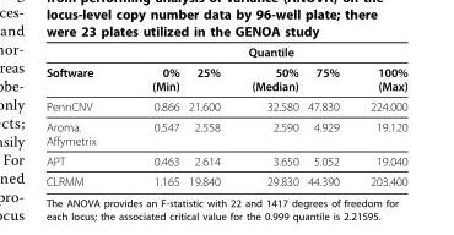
<table><thead><tr><td rowspan="2">Software</td><td colspan="5">Quantile</td></tr><tr><td>0% (Min)</td><td>25%</td><td>50% (Median)</td><td>75%</td><td>100% (Max)</td></tr></thead><tbody><tr><td>PennCNV</td><td>0.866</td><td>21.600</td><td>32.580</td><td>47.830</td><td>224.000</td></tr><tr><td>Aroma. Affymetrix</td><td>0.547</td><td>2.558</td><td>2.590</td><td>4.929</td><td>19.120</td></tr><tr><td>APT</td><td>0.463</td><td>2.614</td><td>3.650</td><td>5.052</td><td>19.040</td></tr><tr><td>CLRMM</td><td>1.165</td><td>19.840</td><td>29.830</td><td>44.390</td><td>203.400</td></tr></tbody></table>